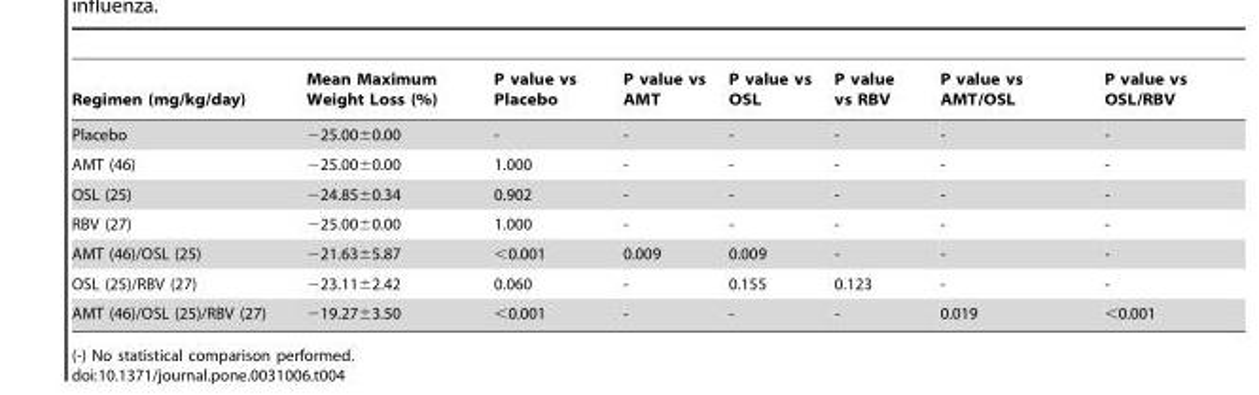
<table><thead><tr><td>Regimen (mg/kg/day)</td><td>Mean Maximum Weight Loss (%)</td><td>P value vs Placebo</td><td>P value vs AMT</td><td>P value vs OSL</td><td>P value vs RBV</td><td>P value vs AMT/OSL</td><td>P value vs OSL/RBV</td></tr></thead><tbody><tr><td>Placebo</td><td>−25.00±0.00</td><td>-</td><td>-</td><td>-</td><td>-</td><td>-</td><td>-</td></tr><tr><td>AMT (46)</td><td>−25.00±0.00</td><td>1.000</td><td>-</td><td>-</td><td>-</td><td>-</td><td>-</td></tr><tr><td>OSL (25)</td><td>−24.85±0.34</td><td>0.902</td><td>-</td><td>-</td><td>-</td><td>-</td><td>-</td></tr><tr><td>RBV (27)</td><td>−25.00±0.00</td><td>1.000</td><td>-</td><td>-</td><td>-</td><td>-</td><td>-</td></tr><tr><td>AMT (46)/OSL (25)</td><td>−21.63±5.87</td><td>&lt;0.001</td><td>0.009</td><td>0.009</td><td>-</td><td>-</td><td>-</td></tr><tr><td>OSL (25)/RBV (27)</td><td>−23.11±2.42</td><td>0.060</td><td>-</td><td>0.155</td><td>0.123</td><td>-</td><td>-</td></tr><tr><td>AMT (46)/OSL (25)/RBV (27)</td><td>−19.27±3.50</td><td>&lt;0.001</td><td>-</td><td>-</td><td>-</td><td>0.019</td><td>&lt;0.001</td></tr></tbody></table>